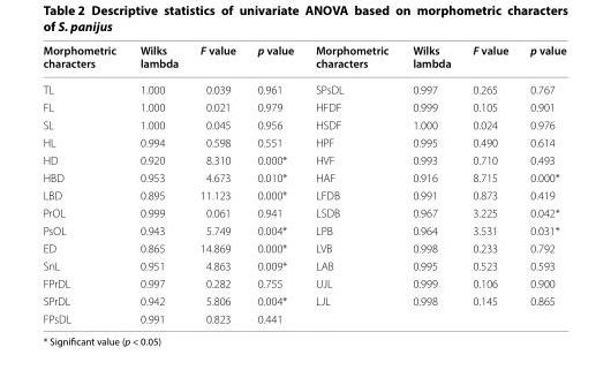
<table><thead><tr><td>Morphometric characters</td><td>Wilks lambda</td><td>F value</td><td>p value</td><td>Morphometric characters</td><td>Wilks lambda</td><td>F value</td><td>p value</td></tr></thead><tbody><tr><td>TL</td><td>1.000</td><td>0.039</td><td>0.961</td><td>SPsDL</td><td>0.997</td><td>0.265</td><td>0.767</td></tr><tr><td>FL</td><td>1.000</td><td>0.021</td><td>0.979</td><td>HFDF</td><td>0.999</td><td>0.105</td><td>0.901</td></tr><tr><td>SL</td><td>1.000</td><td>0.045</td><td>0.956</td><td>HSDF</td><td>1.000</td><td>0.024</td><td>0.976</td></tr><tr><td>HL</td><td>0.994</td><td>0.598</td><td>0.551</td><td>HPF</td><td>0.995</td><td>0.490</td><td>0.614</td></tr><tr><td>HD</td><td>0.920</td><td>8.310</td><td>0.000*</td><td>HVF</td><td>0.993</td><td>0.710</td><td>0.493</td></tr><tr><td>HBD</td><td>0.953</td><td>4.673</td><td>0.010*</td><td>HAF</td><td>0.916</td><td>8.715</td><td>0.000*</td></tr><tr><td>LBD</td><td>0.895</td><td>11.123</td><td>0.000*</td><td>LFDB</td><td>0.991</td><td>0.873</td><td>0.419</td></tr><tr><td>PrOL</td><td>0.999</td><td>0.061</td><td>0.941</td><td>LSDB</td><td>0.967</td><td>3.225</td><td>0.042*</td></tr><tr><td>PsOL</td><td>0.943</td><td>5.749</td><td>0.004*</td><td>LPB</td><td>0.964</td><td>3.531</td><td>0.031*</td></tr><tr><td>ED</td><td>0.865</td><td>14.869</td><td>0.000*</td><td>LVB</td><td>0.998</td><td>0.233</td><td>0.792</td></tr><tr><td>SnL</td><td>0.951</td><td>4.863</td><td>0.009*</td><td>LAB</td><td>0.995</td><td>0.523</td><td>0.593</td></tr><tr><td>FPrDL</td><td>0.997</td><td>0.282</td><td>0.755</td><td>UJL</td><td>0.999</td><td>0.106</td><td>0.900</td></tr><tr><td>SPrDL</td><td>0.942</td><td>5.806</td><td>0.004*</td><td>LJL</td><td>0.998</td><td>0.145</td><td>0.865</td></tr><tr><td>FPsDL</td><td>0.991</td><td>0.823</td><td>0.441</td><td></td><td></td><td></td><td></td></tr></tbody></table>